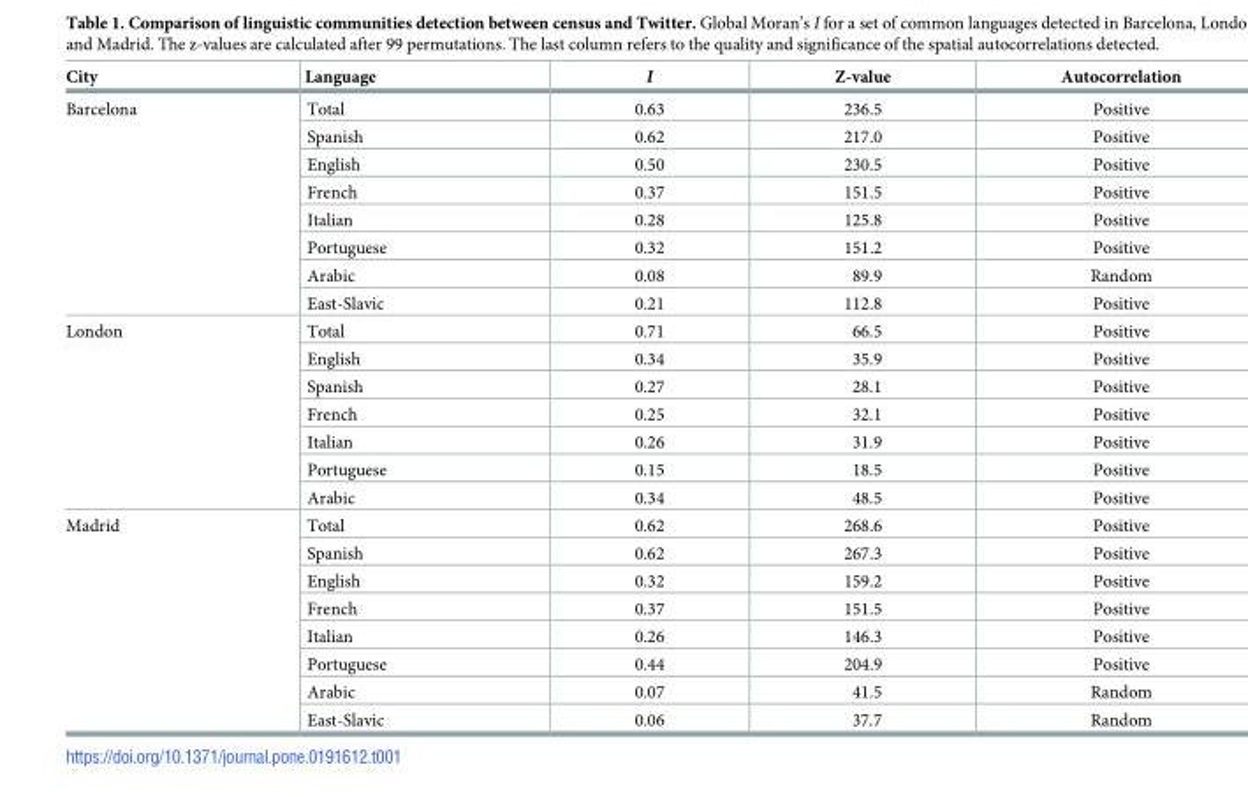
<table><thead><tr><td>City</td><td>Language</td><td>I</td><td>Z-value</td><td>Autocorrelation</td></tr></thead><tbody><tr><td rowspan="8">Barcelona</td><td>Total</td><td>0.63</td><td>236.5</td><td>Positive</td></tr><tr><td>Spanish</td><td>0.62</td><td>217.0</td><td>Positive</td></tr><tr><td>English</td><td>0.50</td><td>230.5</td><td>Positive</td></tr><tr><td>French</td><td>0.37</td><td>151.5</td><td>Positive</td></tr><tr><td>Italian</td><td>0.28</td><td>125.8</td><td>Positive</td></tr><tr><td>Portuguese</td><td>0.32</td><td>151.2</td><td>Positive</td></tr><tr><td>Arabic</td><td>0.08</td><td>89.9</td><td>Random</td></tr><tr><td>East-Slavic</td><td>0.21</td><td>112.8</td><td>Positive</td></tr><tr><td rowspan="7">London</td><td>Total</td><td>0.71</td><td>66.5</td><td>Positive</td></tr><tr><td>English</td><td>0.34</td><td>35.9</td><td>Positive</td></tr><tr><td>Spanish</td><td>0.27</td><td>28.1</td><td>Positive</td></tr><tr><td>French</td><td>0.25</td><td>32.1</td><td>Positive</td></tr><tr><td>Italian</td><td>0.26</td><td>31.9</td><td>Positive</td></tr><tr><td>Portuguese</td><td>0.15</td><td>18.5</td><td>Positive</td></tr><tr><td>Arabic</td><td>0.34</td><td>48.5</td><td>Positive</td></tr><tr><td rowspan="8">Madrid</td><td>Total</td><td>0.62</td><td>268.6</td><td>Positive</td></tr><tr><td>Spanish</td><td>0.62</td><td>267.3</td><td>Positive</td></tr><tr><td>English</td><td>0.32</td><td>159.2</td><td>Positive</td></tr><tr><td>French</td><td>0.37</td><td>151.5</td><td>Positive</td></tr><tr><td>Italian</td><td>0.26</td><td>146.3</td><td>Positive</td></tr><tr><td>Portuguese</td><td>0.44</td><td>204.9</td><td>Positive</td></tr><tr><td>Arabic</td><td>0.07</td><td>41.5</td><td>Random</td></tr><tr><td>East-Slavic</td><td>0.06</td><td>37.7</td><td>Random</td></tr></tbody></table>